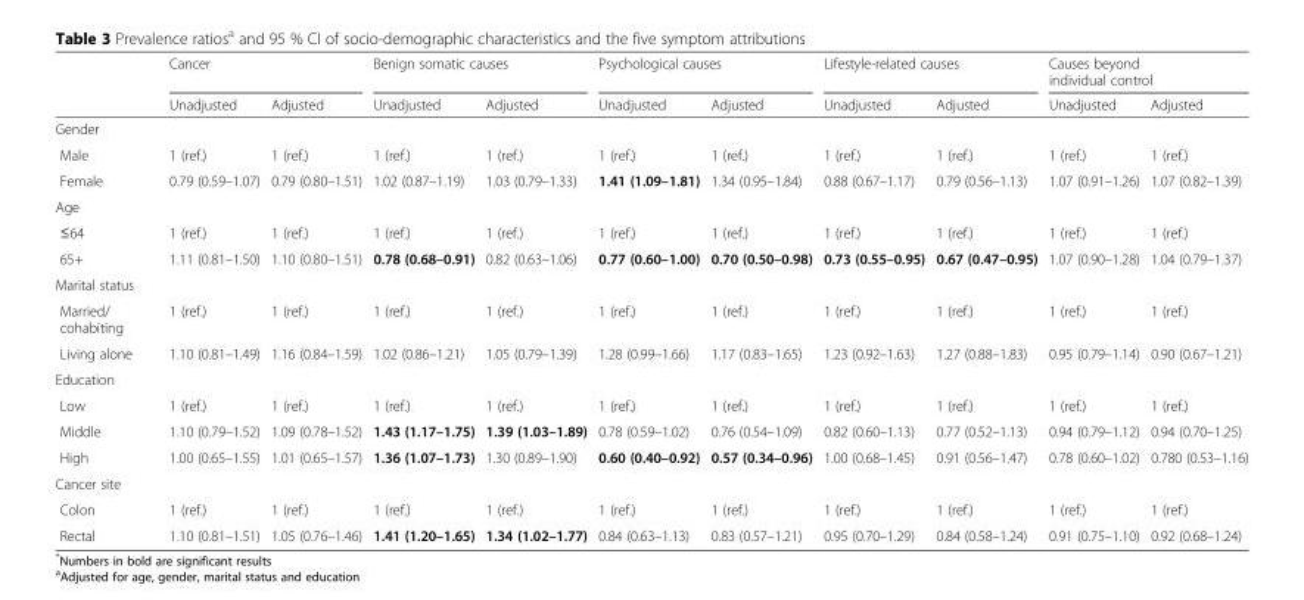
<table><thead><tr><td rowspan="2"></td><td colspan="2">Cancer</td><td colspan="2">Benign somatic causes</td><td colspan="2">Psychological causes</td><td colspan="2">Lifestyle-related causes</td><td colspan="2">Causes beyond individual control</td></tr><tr><td>Unadjusted</td><td>Adjusted</td><td>Unadjusted</td><td>Adjusted</td><td>Unadjusted</td><td>Adjusted</td><td>Unadjusted</td><td>Adjusted</td><td>Unadjusted</td><td>Adjusted</td></tr></thead><tbody><tr><td colspan="11">Gender</td></tr><tr><td>Male</td><td>1 (ref.)</td><td>1 (ref.)</td><td>1 (ref.)</td><td>1 (ref.)</td><td>1 (ref.)</td><td>1 (ref.)</td><td>1 (ref.)</td><td>1 (ref.)</td><td>1 (ref.)</td><td>1 (ref.)</td></tr><tr><td>Female</td><td>0.79 (0.59–1.07)</td><td>0.79 (0.80–1.51)</td><td>1.02 (0.87–1.19)</td><td>1.03 (0.79–1.33)</td><td>1.41 (1.09–1.81)</td><td>1.34 (0.95–1.84)</td><td>0.88 (0.67–1.17)</td><td>0.79 (0.56–1.13)</td><td>1.07 (0.91–1.26)</td><td>1.07 (0.82–1.39)</td></tr><tr><td colspan="11">Age</td></tr><tr><td>≤64</td><td>1 (ref.)</td><td>1 (ref.)</td><td>1 (ref.)</td><td>1 (ref.)</td><td>1 (ref.)</td><td>1 (ref.)</td><td>1 (ref.)</td><td>1 (ref.)</td><td>1 (ref.)</td><td>1 (ref.)</td></tr><tr><td>65+</td><td>1.11 (0.81–1.50)</td><td>1.10 (0.80–1.51)</td><td>0.78 (0.68–0.91)</td><td>0.82 (0.63–1.06)</td><td>0.77 (0.60–1.00)</td><td>0.70 (0.50–0.98)</td><td>0.73 (0.55–0.95)</td><td>0.67 (0.47–0.95)</td><td>1.07 (0.90–1.28)</td><td>1.04 (0.79–1.37)</td></tr><tr><td colspan="11">Marital status</td></tr><tr><td>Married/ cohabiting</td><td>1 (ref.)</td><td>1 (ref.)</td><td>1 (ref.)</td><td>1 (ref.)</td><td>1 (ref.)</td><td>1 (ref.)</td><td>1 (ref.)</td><td>1 (ref.)</td><td>1 (ref.)</td><td>1 (ref.)</td></tr><tr><td>Living alone</td><td>1.10 (0.81–1.49)</td><td>1.16 (0.84–1.59)</td><td>1.02 (0.86–1.21)</td><td>1.05 (0.79–1.39)</td><td>1.28 (0.99–1.66)</td><td>1.17 (0.83–1.65)</td><td>1.23 (0.92–1.63)</td><td>1.27 (0.88–1.83)</td><td>0.95 (0.79–1.14)</td><td>0.90 (0.67–1.21)</td></tr><tr><td colspan="11">Education</td></tr><tr><td>Low</td><td>1 (ref.)</td><td>1 (ref.)</td><td>1 (ref.)</td><td>1 (ref.)</td><td>1 (ref.)</td><td>1 (ref.)</td><td>1 (ref.)</td><td>1 (ref.)</td><td>1 (ref.)</td><td>1 (ref.)</td></tr><tr><td>Middle</td><td>1.10 (0.79–1.52)</td><td>1.09 (0.78–1.52)</td><td>1.43 (1.17–1.75)</td><td>1.39 (1.03–1.89)</td><td>0.78 (0.59–1.02)</td><td>0.76 (0.54–1.09)</td><td>0.82 (0.60–1.13)</td><td>0.77 (0.52–1.13)</td><td>0.94 (0.79–1.12)</td><td>0.94 (0.70–1.25)</td></tr><tr><td>High</td><td>1.00 (0.65–1.55)</td><td>1.01 (0.65–1.57)</td><td>1.36 (1.07–1.73)</td><td>1.30 (0.89–1.90)</td><td>0.60 (0.40–0.92)</td><td>0.57 (0.34–0.96)</td><td>1.00 (0.68–1.45)</td><td>0.91 (0.56–1.47)</td><td>0.78 (0.60–1.02)</td><td>0.780 (0.53–1.16)</td></tr><tr><td colspan="11">Cancer site</td></tr><tr><td>Colon</td><td>1 (ref.)</td><td>1 (ref.)</td><td>1 (ref.)</td><td>1 (ref.)</td><td>1 (ref.)</td><td>1 (ref.)</td><td>1 (ref.)</td><td>1 (ref.)</td><td>1 (ref.)</td><td>1 (ref.)</td></tr><tr><td>Rectal</td><td>1.10 (0.81–1.51)</td><td>1.05 (0.76–1.46)</td><td>1.41 (1.20–1.65)</td><td>1.34 (1.02–1.77)</td><td>0.84 (0.63–1.13)</td><td>0.83 (0.57–1.21)</td><td>0.95 (0.70–1.29)</td><td>0.84 (0.58–1.24)</td><td>0.91 (0.75–1.10)</td><td>0.92 (0.68–1.24)</td></tr></tbody></table>